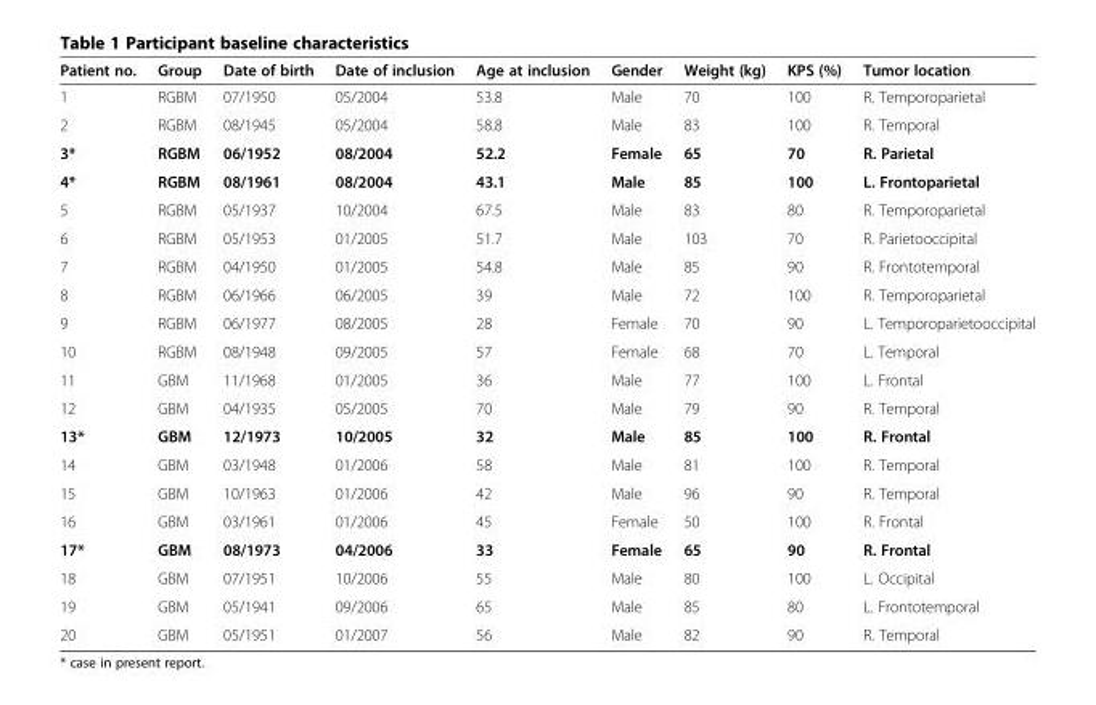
<table><thead><tr><td>Patient no.</td><td>Group</td><td>Date of birth</td><td>Date of inclusion</td><td>Age at inclusion</td><td>Gender</td><td>Weight (kg)</td><td>KPS (%)</td><td>Tumor location</td></tr></thead><tbody><tr><td>1</td><td>RGBM</td><td>07/1950</td><td>05/2004</td><td>53.8</td><td>Male</td><td>70</td><td>100</td><td>R. Temporoparietal</td></tr><tr><td>2</td><td>RGBM</td><td>08/1945</td><td>05/2004</td><td>58.8</td><td>Male</td><td>83</td><td>100</td><td>R. Temporal</td></tr><tr><td>3*</td><td>RGBM</td><td>06/1952</td><td>08/2004</td><td>52.2</td><td>Female</td><td>65</td><td>70</td><td>R. Parietal</td></tr><tr><td>4*</td><td>RGBM</td><td>08/1961</td><td>08/2004</td><td>43.1</td><td>Male</td><td>85</td><td>100</td><td>L. Frontoparietal</td></tr><tr><td>5</td><td>RGBM</td><td>05/1937</td><td>10/2004</td><td>67.5</td><td>Male</td><td>83</td><td>80</td><td>R. Temporoparietal</td></tr><tr><td>6</td><td>RGBM</td><td>05/1953</td><td>01/2005</td><td>51.7</td><td>Male</td><td>103</td><td>70</td><td>R. Parietooccipital</td></tr><tr><td>7</td><td>RGBM</td><td>04/1950</td><td>01/2005</td><td>54.8</td><td>Male</td><td>85</td><td>90</td><td>R. Frontotemporal</td></tr><tr><td>8</td><td>RGBM</td><td>06/1966</td><td>06/2005</td><td>39</td><td>Male</td><td>72</td><td>100</td><td>R. Temporoparietal</td></tr><tr><td>9</td><td>RGBM</td><td>06/1977</td><td>08/2005</td><td>28</td><td>Female</td><td>70</td><td>90</td><td>L. Temporoparietooccipital</td></tr><tr><td>10</td><td>RGBM</td><td>08/1948</td><td>09/2005</td><td>57</td><td>Female</td><td>68</td><td>70</td><td>L. Temporal</td></tr><tr><td>11</td><td>GBM</td><td>11/1968</td><td>01/2005</td><td>36</td><td>Male</td><td>77</td><td>100</td><td>L. Frontal</td></tr><tr><td>12</td><td>GBM</td><td>04/1935</td><td>05/2005</td><td>70</td><td>Male</td><td>79</td><td>90</td><td>R. Temporal</td></tr><tr><td>13*</td><td>GBM</td><td>12/1973</td><td>10/2005</td><td>32</td><td>Male</td><td>85</td><td>100</td><td>R. Frontal</td></tr><tr><td>14</td><td>GBM</td><td>03/1948</td><td>01/2006</td><td>58</td><td>Male</td><td>81</td><td>100</td><td>R. Temporal</td></tr><tr><td>15</td><td>GBM</td><td>10/1963</td><td>01/2006</td><td>42</td><td>Male</td><td>96</td><td>90</td><td>R. Temporal</td></tr><tr><td>16</td><td>GBM</td><td>03/1961</td><td>01/2006</td><td>45</td><td>Female</td><td>50</td><td>100</td><td>R. Frontal</td></tr><tr><td>17*</td><td>GBM</td><td>08/1973</td><td>04/2006</td><td>33</td><td>Female</td><td>65</td><td>90</td><td>R. Frontal</td></tr><tr><td>18</td><td>GBM</td><td>07/1951</td><td>10/2006</td><td>55</td><td>Male</td><td>80</td><td>100</td><td>L. Occipital</td></tr><tr><td>19</td><td>GBM</td><td>05/1941</td><td>09/2006</td><td>65</td><td>Male</td><td>85</td><td>80</td><td>L. Frontotemporal</td></tr><tr><td>20</td><td>GBM</td><td>05/1951</td><td>01/2007</td><td>56</td><td>Male</td><td>82</td><td>90</td><td>R. Temporal</td></tr></tbody></table>